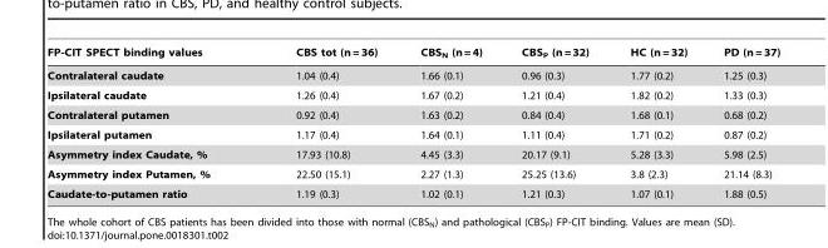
<table><thead><tr><td>FP-CIT SPECT binding values</td><td>CBS tot (n = 36)</td><td>CBS<sub>N</sub> (n = 4)</td><td>CBS<sub>P</sub> (n = 32)</td><td>HC (n = 32)</td><td>PD (n = 37)</td></tr></thead><tbody><tr><td>Contralateral caudate</td><td>1.04 (0.4)</td><td>1.66 (0.1)</td><td>0.96 (0.3)</td><td>1.77 (0.2)</td><td>1.25 (0.3)</td></tr><tr><td>Ipsilateral caudate</td><td>1.26 (0.4)</td><td>1.67 (0.2)</td><td>1.21 (0.4)</td><td>1.82 (0.2)</td><td>1.33 (0.3)</td></tr><tr><td>Contralateral putamen</td><td>0.92 (0.4)</td><td>1.63 (0.2)</td><td>0.84 (0.4)</td><td>1.68 (0.1)</td><td>0.68 (0.2)</td></tr><tr><td>Ipsilateral putamen</td><td>1.17 (0.4)</td><td>1.64 (0.1)</td><td>1.11 (0.4)</td><td>1.71 (0.2)</td><td>0.87 (0.2)</td></tr><tr><td>Asymmetry index Caudate, %</td><td>17.93 (10.8)</td><td>4.45 (3.3)</td><td>20.17 (9.1)</td><td>5.28 (3.3)</td><td>5.98 (2.5)</td></tr><tr><td>Asymmetry index Putamen, %</td><td>22.50 (15.1)</td><td>2.27 (1.3)</td><td>25.25 (13.6)</td><td>3.8 (2.3)</td><td>21.14 (8.3)</td></tr><tr><td>Caudate-to-putamen ratio</td><td>1.19 (0.3)</td><td>1.02 (0.1)</td><td>1.21 (0.3)</td><td>1.07 (0.1)</td><td>1.88 (0.5)</td></tr></tbody></table>